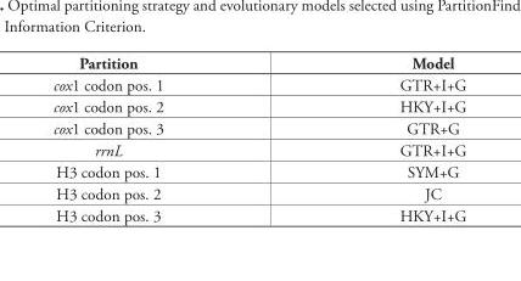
<table><thead><tr><td>Partition</td><td>Model</td></tr></thead><tbody><tr><td>cox1 codon pos. 1</td><td>GTR+I+G</td></tr><tr><td>cox1 codon pos. 2</td><td>HKY+I+G</td></tr><tr><td>cox1 codon pos. 3</td><td>GTR+G</td></tr><tr><td>rrnL</td><td>GTR+I+G</td></tr><tr><td>H3 codon pos. 1</td><td>SYM+G</td></tr><tr><td>H3 codon pos. 2</td><td>JC</td></tr><tr><td>H3 codon pos. 3</td><td>HKY+I+G</td></tr></tbody></table>